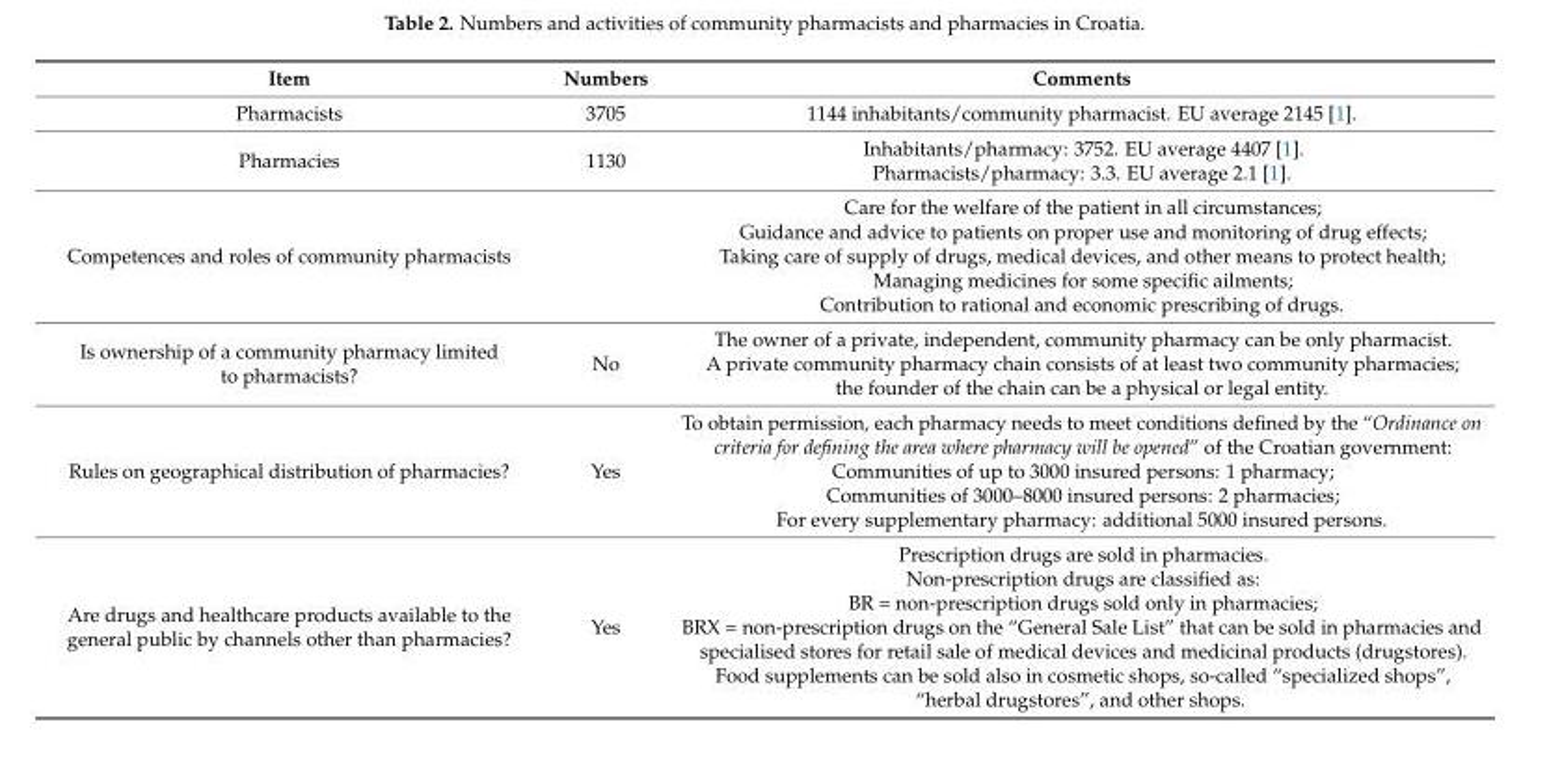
<table><thead><tr><td>Item</td><td>Numbers</td><td>Comments</td></tr></thead><tbody><tr><td>Pharmacists</td><td>3705</td><td>1144 inhabitants/community pharmacist. EU average 2145 [1].</td></tr><tr><td>Pharmacies</td><td>1130</td><td>Inhabitants/pharmacy: 3752. EU average 4407 [1]. Pharmacists/pharmacy: 3.3. EU average 2.1 [1].</td></tr><tr><td>Competences and roles of community pharmacists</td><td></td><td>Care for the welfare of the patient in all circumstances; Guidance and advice to patients on proper use and monitoring of drug effects; Taking care of supply of drugs, medical devices, and other means to protect health; Managing medicines for some specific ailments; Contribution to rational and economic prescribing of drugs.</td></tr><tr><td>Is ownership of a community pharmacy limited to pharmacists?</td><td>No</td><td>The owner of a private, independent, community pharmacy can be only pharmacist. A private community pharmacy chain consists of at least two community pharmacies; the founder of the chain can be a physical or legal entity.</td></tr><tr><td>Rules on geographical distribution of pharmacies?</td><td>Yes</td><td>To obtain permission, each pharmacy needs to meet conditions defined by the “Ordinance on criteria for defining the area where pharmacy will be opened” of the Croatian government: Communities of up to 3000 insured persons: 1 pharmacy; Communities of 3000–8000 insured persons: 2 pharmacies; For every supplementary pharmacy: additional 5000 insured persons.</td></tr><tr><td>Are drugs and healthcare products available to the general public by channels other than pharmacies?</td><td>Yes</td><td>Prescription drugs are sold in pharmacies. Non-prescription drugs are classified as: BR = non-prescription drugs sold only in pharmacies; BRX = non-prescription drugs on the “General Sale List” that can be sold in pharmacies and specialised stores for retail sale of medical devices and medicinal products (drugstores). Food supplements can be sold also in cosmetic shops, so-called “specialized shops”, “herbal drugstores”, and other shops.</td></tr></tbody></table>